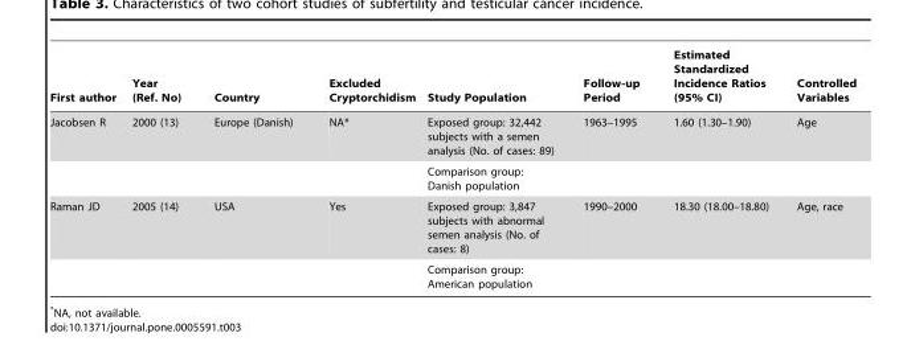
<table><thead><tr><td>First author</td><td>Year (Ref. No)</td><td>Country</td><td>Excluded Cryptorchidism</td><td>Study Population</td><td>Follow-up Period</td><td>Estimated Standardized Incidence Ratios (95% CI)</td><td>Controlled Variables</td></tr></thead><tbody><tr><td rowspan="2">Jacobsen R</td><td>2000 (13)</td><td>Europe (Danish)</td><td>NA*</td><td>Exposed group: 32,442 subjects with a semen analysis (No. of cases: 89)</td><td>1963–1995</td><td>1.60 (1.30–1.90)</td><td>Age</td></tr><tr><td></td><td></td><td></td><td>Comparison group: Danish population</td><td></td><td></td><td></td></tr><tr><td rowspan="2">Raman JD</td><td>2005 (14)</td><td>USA</td><td>Yes</td><td>Exposed group: 3,847 subjects with abnormal semen analysis (No. of cases: 8)</td><td>1990–2000</td><td>18.30 (18.00–18.80)</td><td>Age, race</td></tr><tr><td></td><td></td><td></td><td>Comparison group: American population</td><td></td><td></td><td></td></tr></tbody></table>